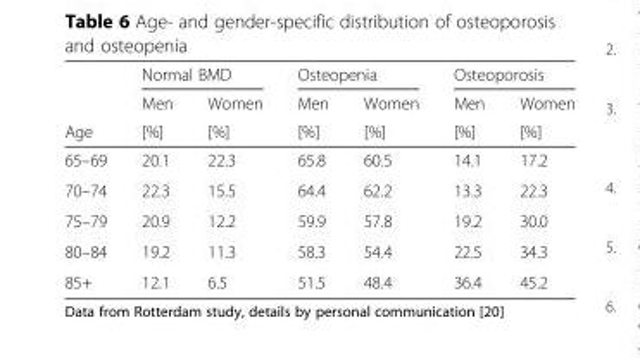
<table><thead><tr><td rowspan="3">Age</td><td colspan="2">Normal BMD</td><td colspan="2">Osteopenia</td><td colspan="2">Osteoporosis</td></tr><tr><td rowspan="2">Men [%]</td><td rowspan="2">Women [%]</td><td rowspan="2">Men [%]</td><td rowspan="2">Women [%]</td><td rowspan="2">Men [%]</td><td rowspan="2">Women [%]</td></tr><tr></tr></thead><tbody><tr><td>65–69</td><td>20.1</td><td>22.3</td><td>65.8</td><td>60.5</td><td>14.1</td><td>17.2</td></tr><tr><td>70–74</td><td>22.3</td><td>15.5</td><td>64.4</td><td>62.2</td><td>13.3</td><td>22.3</td></tr><tr><td>75–79</td><td>20.9</td><td>12.2</td><td>59.9</td><td>57.8</td><td>19.2</td><td>30.0</td></tr><tr><td>80–84</td><td>19.2</td><td>11.3</td><td>58.3</td><td>54.4</td><td>22.5</td><td>34.3</td></tr><tr><td>85+</td><td>12.1</td><td>6.5</td><td>51.5</td><td>48.4</td><td>36.4</td><td>45.2</td></tr></tbody></table>